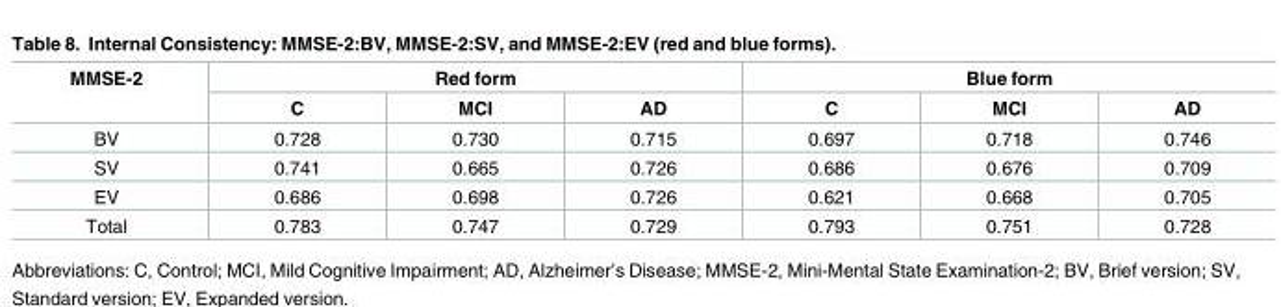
<table><thead><tr><td rowspan="2">MMSE-2</td><td colspan="3">Red form</td><td colspan="3">Blue form</td></tr><tr><td>C</td><td>MCI</td><td>AD</td><td>C</td><td>MCI</td><td>AD</td></tr></thead><tbody><tr><td>BV</td><td>0.728</td><td>0.730</td><td>0.715</td><td>0.697</td><td>0.718</td><td>0.746</td></tr><tr><td>SV</td><td>0.741</td><td>0.665</td><td>0.726</td><td>0.686</td><td>0.676</td><td>0.709</td></tr><tr><td>EV</td><td>0.686</td><td>0.698</td><td>0.726</td><td>0.621</td><td>0.668</td><td>0.705</td></tr><tr><td>Total</td><td>0.783</td><td>0.747</td><td>0.729</td><td>0.793</td><td>0.751</td><td>0.728</td></tr></tbody></table>